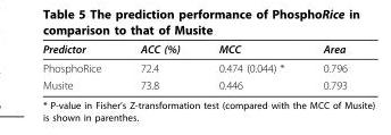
<table><thead><tr><td>Predictor</td><td>ACC (%)</td><td>MCC</td><td>Area</td></tr></thead><tbody><tr><td>PhosphoRice</td><td>72.4</td><td>0.474 (0.044) *</td><td>0.796</td></tr><tr><td>Musite</td><td>73.8</td><td>0.446</td><td>0.793</td></tr></tbody></table>